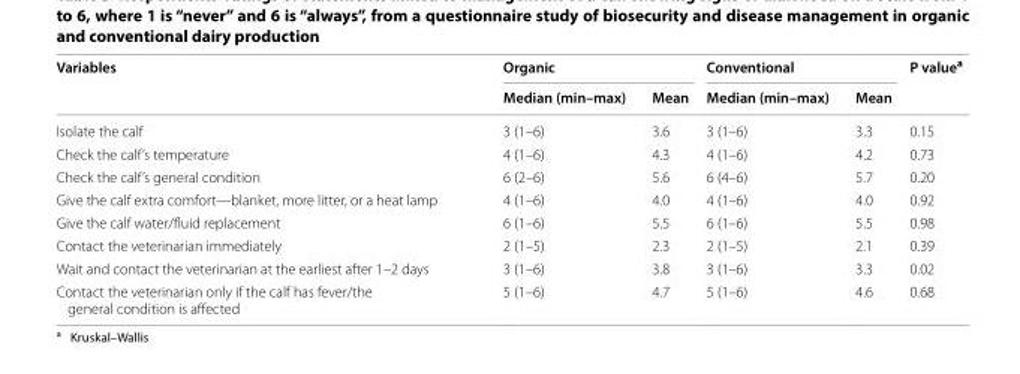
<table><thead><tr><td rowspan="2">Variables</td><td colspan="2">Organic</td><td colspan="2">Conventional</td><td rowspan="2">P value<sup>a</sup></td></tr><tr><td>Median (min–max)</td><td>Mean</td><td>Median (min–max)</td><td>Mean</td></tr></thead><tbody><tr><td>Isolate the calf</td><td>3 (1–6)</td><td>3.6</td><td>3 (1–6)</td><td>3.3</td><td>0.15</td></tr><tr><td>Check the calf’s temperature</td><td>4 (1–6)</td><td>4.3</td><td>4 (1–6)</td><td>4.2</td><td>0.73</td></tr><tr><td>Check the calf’s general condition</td><td>6 (2–6)</td><td>5.6</td><td>6 (4–6)</td><td>5.7</td><td>0.20</td></tr><tr><td>Give the calf extra comfort—blanket, more litter, or a heat lamp</td><td>4 (1–6)</td><td>4.0</td><td>4 (1–6)</td><td>4.0</td><td>0.92</td></tr><tr><td>Give the calf water/fluid replacement</td><td>6 (1–6)</td><td>5.5</td><td>6 (1–6)</td><td>5.5</td><td>0.98</td></tr><tr><td>Contact the veterinarian immediately</td><td>2 (1–5)</td><td>2.3</td><td>2 (1–5)</td><td>2.1</td><td>0.39</td></tr><tr><td>Wait and contact the veterinarian at the earliest after 1–2 days</td><td>3 (1–6)</td><td>3.8</td><td>3 (1–6)</td><td>3.3</td><td>0.02</td></tr><tr><td>Contact the veterinarian only if the calf has fever/the general condition is affected</td><td>5 (1–6)</td><td>4.7</td><td>5 (1–6)</td><td>4.6</td><td>0.68</td></tr></tbody></table>